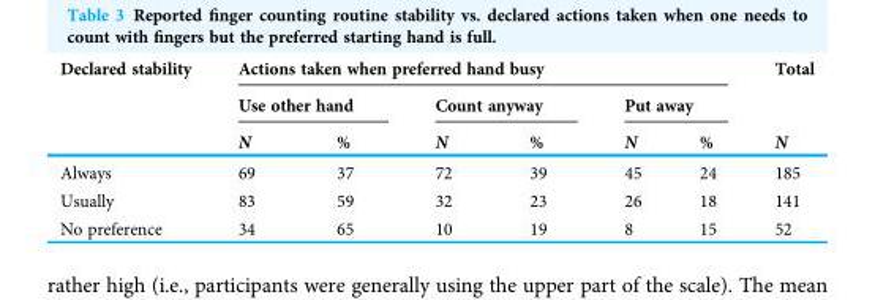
<table><thead><tr><td rowspan="3">Declared stability</td><td colspan="6">Actions taken when preferred hand busy</td><td rowspan="3">Total N</td></tr><tr><td colspan="2">Use other hand</td><td colspan="2">Count anyway</td><td colspan="2">Put away</td></tr><tr><td>N</td><td>%</td><td>N</td><td>%</td><td>N</td><td>%</td></tr></thead><tbody><tr><td>Always</td><td>69</td><td>37</td><td>72</td><td>39</td><td>45</td><td>24</td><td>185</td></tr><tr><td>Usually</td><td>83</td><td>59</td><td>32</td><td>23</td><td>26</td><td>18</td><td>141</td></tr><tr><td>No preference</td><td>34</td><td>65</td><td>10</td><td>19</td><td>8</td><td>15</td><td>52</td></tr></tbody></table>